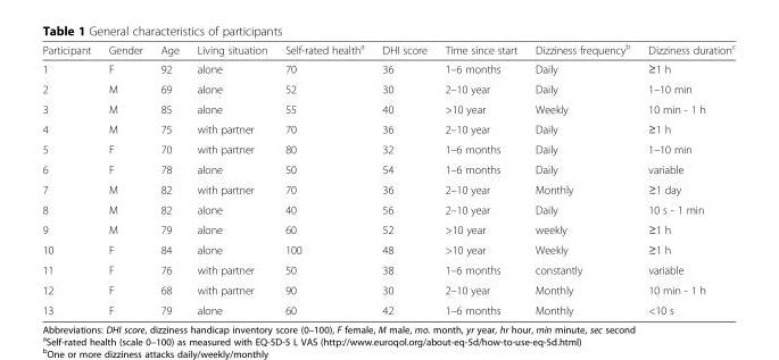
<table><thead><tr><td>Participant</td><td>Gender</td><td>Age</td><td>Living situation</td><td>Self-rated health<sup>a</sup></td><td>DHI score</td><td>Time since start</td><td>Dizziness frequency<sup>b</sup></td><td>Dizziness duration<sup>c</sup></td></tr></thead><tbody><tr><td>1</td><td>F</td><td>92</td><td>alone</td><td>70</td><td>36</td><td>1–6 months</td><td>Daily</td><td>≥1 h</td></tr><tr><td>2</td><td>M</td><td>69</td><td>alone</td><td>52</td><td>30</td><td>2–10 year</td><td>Daily</td><td>1–10 min</td></tr><tr><td>3</td><td>M</td><td>85</td><td>alone</td><td>55</td><td>40</td><td>&gt;10 year</td><td>Weekly</td><td>10 min - 1 h</td></tr><tr><td>4</td><td>M</td><td>75</td><td>with partner</td><td>70</td><td>36</td><td>2–10 year</td><td>Daily</td><td>≥1 h</td></tr><tr><td>5</td><td>F</td><td>70</td><td>with partner</td><td>80</td><td>32</td><td>1–6 months</td><td>Daily</td><td>1–10 min</td></tr><tr><td>6</td><td>F</td><td>78</td><td>alone</td><td>50</td><td>54</td><td>1–6 months</td><td>Daily</td><td>variable</td></tr><tr><td>7</td><td>M</td><td>82</td><td>with partner</td><td>70</td><td>36</td><td>2–10 year</td><td>Monthly</td><td>≥1 day</td></tr><tr><td>8</td><td>M</td><td>82</td><td>alone</td><td>40</td><td>56</td><td>2–10 year</td><td>Daily</td><td>10 s - 1 min</td></tr><tr><td>9</td><td>M</td><td>79</td><td>alone</td><td>60</td><td>52</td><td>&gt;10 year</td><td>weekly</td><td>≥1 h</td></tr><tr><td>10</td><td>F</td><td>84</td><td>alone</td><td>100</td><td>48</td><td>&gt;10 year</td><td>Weekly</td><td>≥1 h</td></tr><tr><td>11</td><td>F</td><td>76</td><td>with partner</td><td>50</td><td>38</td><td>1–6 months</td><td>constantly</td><td>variable</td></tr><tr><td>12</td><td>F</td><td>68</td><td>with partner</td><td>90</td><td>30</td><td>2–10 year</td><td>Monthly</td><td>10 min - 1 h</td></tr><tr><td>13</td><td>F</td><td>79</td><td>alone</td><td>60</td><td>42</td><td>1–6 months</td><td>Monthly</td><td>&lt;10 s</td></tr></tbody></table>